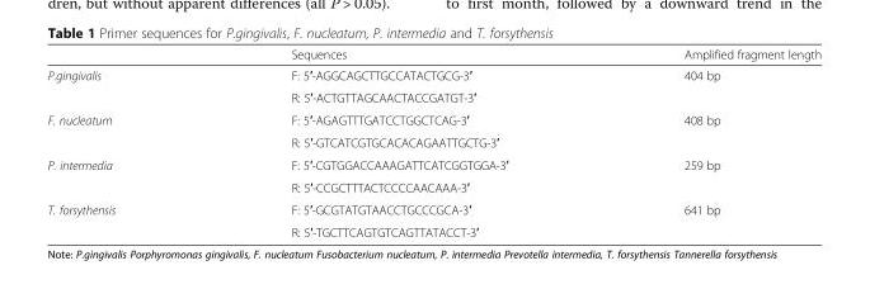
<table><thead><tr><td></td><td>Sequences</td><td>Amplified fragment length</td></tr></thead><tbody><tr><td rowspan="2">P.gingivalis</td><td>F: 5′-AGGCAGCTTGCCATACTGCG-3′</td><td rowspan="2">404 bp</td></tr><tr><td>R: 5′-ACTGTTAGCAACTACCGATGT-3′</td></tr><tr><td rowspan="2">F. nucleatum</td><td>F: 5′-AGAGTTTGATCCTGGCTCAG-3′</td><td rowspan="2">408 bp</td></tr><tr><td>R: 5′-GTCATCGTGCACACAGAATTGCTG-3′</td></tr><tr><td rowspan="2">P. intermedia</td><td>F: 5′-CGTGGACCAAAGATTCATCGGTGGA-3′</td><td rowspan="2">259 bp</td></tr><tr><td>R: 5′-CCGCTTTACTCCCCAACAAA-3′</td></tr><tr><td rowspan="2">T. forsythensis</td><td>F: 5′-GCGTATGTAACCTGCCCGCA-3′</td><td rowspan="2">641 bp</td></tr><tr><td>R: 5′-TGCTTCAGTGTCAGTTATACCT-3′</td></tr></tbody></table>